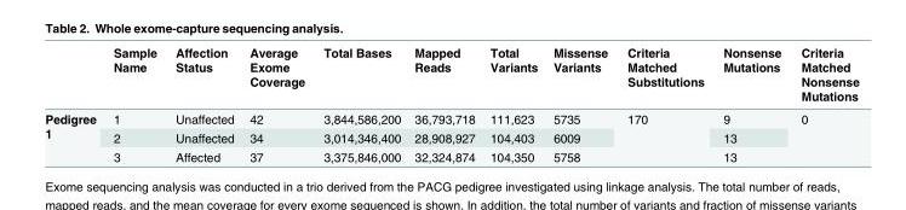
<table><thead><tr><td></td><td>Sample Name</td><td>Affection Status</td><td>Average Exome Coverage</td><td>Total Bases</td><td>Mapped Reads</td><td>Total Variants</td><td>Missense Variants</td><td>Criteria Matched Substitutions</td><td>Nonsense Mutations</td><td>Criteria Matched Nonsense Mutations</td></tr></thead><tbody><tr><td rowspan="3">Pedigree 1</td><td>1</td><td>Unaffected</td><td>42</td><td>3,844,586,200</td><td>36,793,718</td><td>111,623</td><td>5735</td><td rowspan="3">170</td><td>9</td><td rowspan="3">0</td></tr><tr><td>2</td><td>Unaffected</td><td>34</td><td>3,014,346,400</td><td>28,908,927</td><td>104,403</td><td>6009</td><td>13</td></tr><tr><td>3</td><td>Affected</td><td>37</td><td>3,375,846,000</td><td>32,324,874</td><td>104,350</td><td>5758</td><td>13</td></tr></tbody></table>